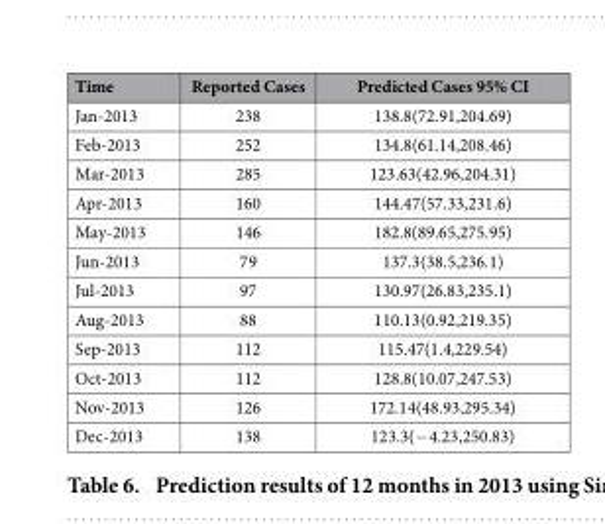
<table><thead><tr><td>Time</td><td>Reported Cases</td><td>Predicted Cases 95% CI</td></tr></thead><tbody><tr><td>Jan-2013</td><td>238</td><td>138.8(72.91,204.69)</td></tr><tr><td>Feb-2013</td><td>252</td><td>134.8(61.14,208.46)</td></tr><tr><td>Mar-2013</td><td>285</td><td>123.63(42.96,204.31)</td></tr><tr><td>Apr-2013</td><td>160</td><td>144.47(57.33,231.6)</td></tr><tr><td>May-2013</td><td>146</td><td>182.8(89.65,275.95)</td></tr><tr><td>Jun-2013</td><td>79</td><td>137.3(38.5,236.1)</td></tr><tr><td>Jul-2013</td><td>97</td><td>130.97(26.83,235.1)</td></tr><tr><td>Aug-2013</td><td>88</td><td>110.13(0.92,219.35)</td></tr><tr><td>Sep-2013</td><td>112</td><td>115.47(1.4,229.54)</td></tr><tr><td>Oct-2013</td><td>112</td><td>128.8(10.07,247.53)</td></tr><tr><td>Nov-2013</td><td>126</td><td>172.14(48.93,295.34)</td></tr><tr><td>Dec-2013</td><td>138</td><td>123.3(− 4.23,250.83)</td></tr></tbody></table>